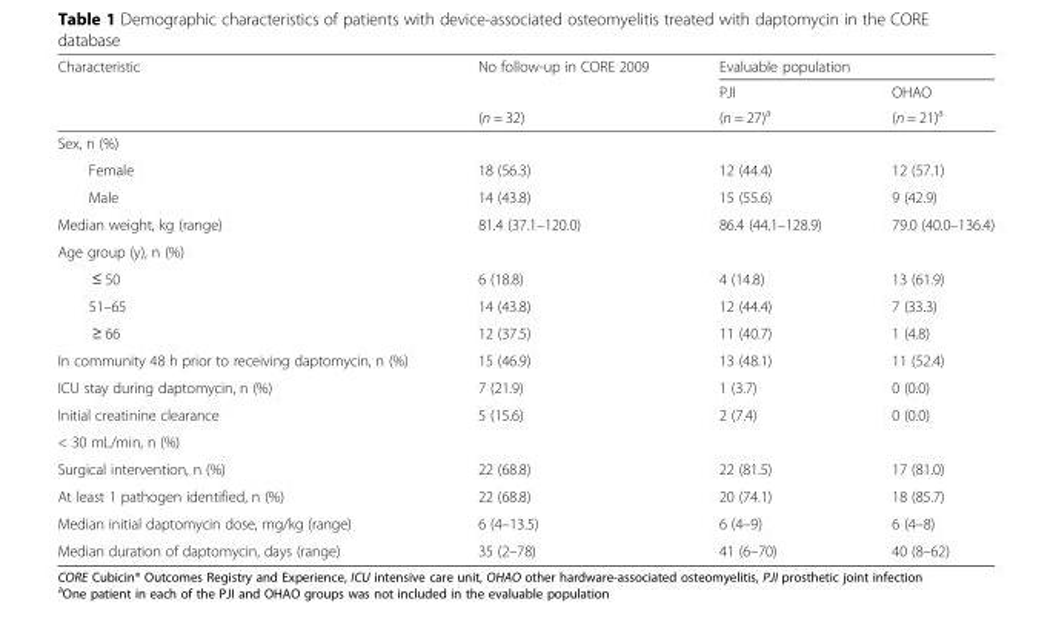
<table><thead><tr><td rowspan="3">Characteristic</td><td rowspan="3">No follow-up in CORE 2009 (n = 32)</td><td colspan="2">Evaluable population</td></tr><tr><td rowspan="2">PJI (n = 27)<sup>a</sup></td><td rowspan="2">OHAO (n = 21)<sup>a</sup></td></tr><tr></tr></thead><tbody><tr><td colspan="4">Sex, n (%)</td></tr><tr><td>Female</td><td>18 (56.3)</td><td>12 (44.4)</td><td>12 (57.1)</td></tr><tr><td>Male</td><td>14 (43.8)</td><td>15 (55.6)</td><td>9 (42.9)</td></tr><tr><td>Median weight, kg (range)</td><td>81.4 (37.1–120.0)</td><td>86.4 (44.1–128.9)</td><td>79.0 (40.0–136.4)</td></tr><tr><td colspan="4">Age group (y), n (%)</td></tr><tr><td>≤ 50</td><td>6 (18.8)</td><td>4 (14.8)</td><td>13 (61.9)</td></tr><tr><td>51–65</td><td>14 (43.8)</td><td>12 (44.4)</td><td>7 (33.3)</td></tr><tr><td>≥ 66</td><td>12 (37.5)</td><td>11 (40.7)</td><td>1 (4.8)</td></tr><tr><td>In community 48 h prior to receiving daptomycin, n (%)</td><td>15 (46.9)</td><td>13 (48.1)</td><td>11 (52.4)</td></tr><tr><td>ICU stay during daptomycin, n (%)</td><td>7 (21.9)</td><td>1 (3.7)</td><td>0 (0.0)</td></tr><tr><td>Initial creatinine clearance</td><td rowspan="2">5 (15.6)</td><td rowspan="2">2 (7.4)</td><td rowspan="2">0 (0.0)</td></tr><tr><td>&lt; 30 mL/min, n (%)</td></tr><tr><td>Surgical intervention, n (%)</td><td>22 (68.8)</td><td>22 (81.5)</td><td>17 (81.0)</td></tr><tr><td>At least 1 pathogen identified, n (%)</td><td>22 (68.8)</td><td>20 (74.1)</td><td>18 (85.7)</td></tr><tr><td>Median initial daptomycin dose, mg/kg (range)</td><td>6 (4–13.5)</td><td>6 (4–9)</td><td>6 (4–8)</td></tr><tr><td>Median duration of daptomycin, days (range)</td><td>35 (2–78)</td><td>41 (6–70)</td><td>40 (8–62)</td></tr></tbody></table>